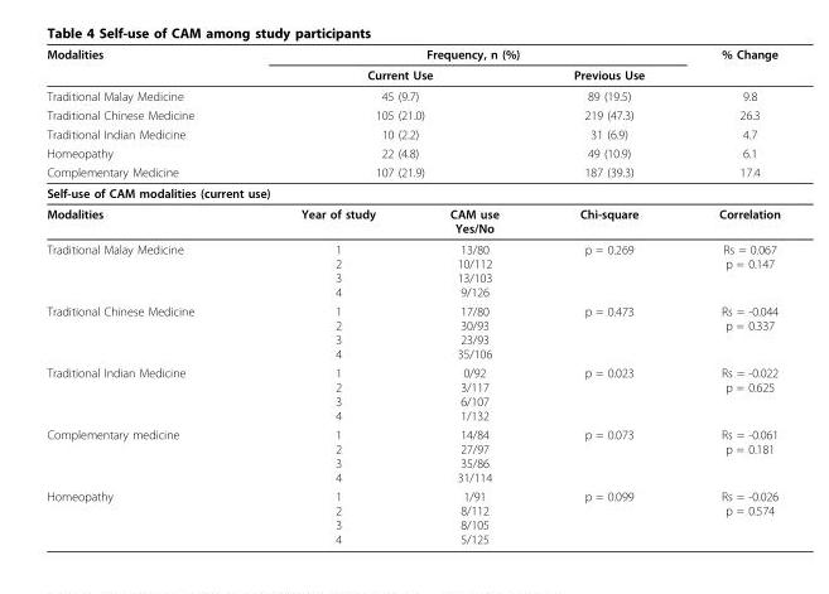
<table><thead><tr><td rowspan="2">Modalities</td><td colspan="3">Frequency, n (%)</td><td rowspan="2">% Change</td></tr><tr><td colspan="2">Current Use</td><td>Previous Use</td></tr></thead><tbody><tr><td>Traditional Malay Medicine</td><td colspan="2">45 (9.7)</td><td>89 (19.5)</td><td>9.8</td></tr><tr><td>Traditional Chinese Medicine</td><td colspan="2">105 (21.0)</td><td>219 (47.3)</td><td>26.3</td></tr><tr><td>Traditional Indian Medicine</td><td colspan="2">10 (2.2)</td><td>31 (6.9)</td><td>4.7</td></tr><tr><td>Homeopathy</td><td colspan="2">22 (4.8)</td><td>49 (10.9)</td><td>6.1</td></tr><tr><td>Complementary Medicine</td><td colspan="2">107 (21.9)</td><td>187 (39.3)</td><td>17.4</td></tr><tr><td colspan="5">Self-use of CAM modalities (current use)</td></tr><tr><td>Modalities</td><td>Year of study</td><td>CAM use Yes/No</td><td>Chi-square</td><td>Correlation</td></tr><tr><td>Traditional Malay Medicine</td><td>1 2 3 4</td><td>13/80 10/112 13/103 9/126</td><td>p = 0.269</td><td>Rs = 0.067 p = 0.147</td></tr><tr><td>Traditional Chinese Medicine</td><td>1 2 3 4</td><td>17/80 30/93 23/93 35/106</td><td>p = 0.473</td><td>Rs = -0.044 p = 0.337</td></tr><tr><td>Traditional Indian Medicine</td><td>1 2 3 4</td><td>0/92 3/117 6/107 1/132</td><td>p = 0.023</td><td>Rs = -0.022 p = 0.625</td></tr><tr><td>Complementary medicine</td><td>1 2 3 4</td><td>14/84 27/97 35/86 31/114</td><td>p = 0.073</td><td>Rs = -0.061 p = 0.181</td></tr><tr><td>Homeopathy</td><td>1 2 3 4</td><td>1/91 8/112 8/105 5/125</td><td>p = 0.099</td><td>Rs = -0.026 p = 0.574</td></tr></tbody></table>